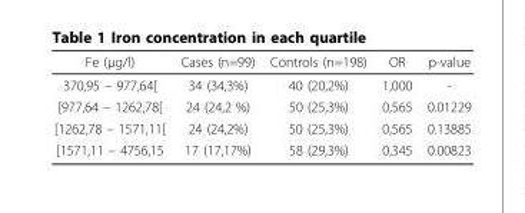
<table><thead><tr><td>Fe (µg/l)</td><td>Cases (n=99)</td><td>Controls (n=198)</td><td>OR</td><td>p-value</td></tr></thead><tbody><tr><td>370,95 – 977,64[</td><td>34 (34,3%)</td><td>40 (20,2%)</td><td>1,000</td><td>-</td></tr><tr><td>[977,64 – 1262,78[</td><td>24 (24,2 %)</td><td>50 (25,3%)</td><td>0,565</td><td>0.01229</td></tr><tr><td>[1262,78 – 1571,11[</td><td>24 (24,2%)</td><td>50 (25,3%)</td><td>0,565</td><td>0.13885</td></tr><tr><td>[1571,11 – 4756,15</td><td>17 (17,17%)</td><td>58 (29,3%)</td><td>0,345</td><td>0.00823</td></tr></tbody></table>